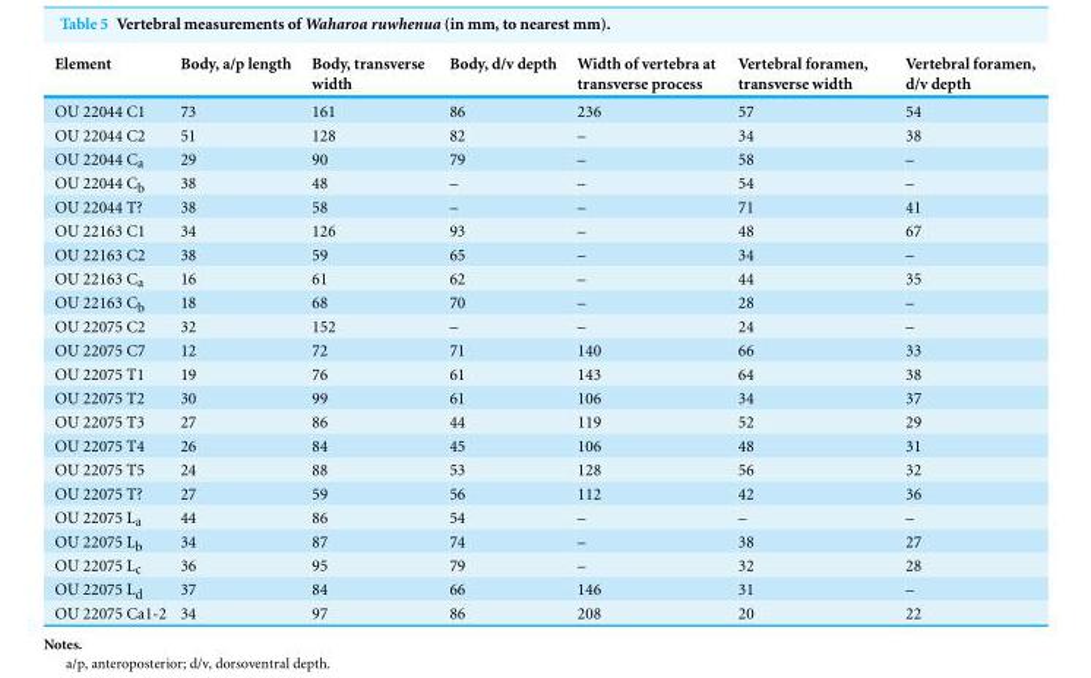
<table><thead><tr><td>Element</td><td>Body, a/p length</td><td>Body, transverse width</td><td>Body, d/v depth</td><td>Width of vertebra at transverse process</td><td>Vertebral foramen, transverse width</td><td>Vertebral foramen, d/v depth</td></tr></thead><tbody><tr><td>OU 22044 C1</td><td>73</td><td>161</td><td>86</td><td>236</td><td>57</td><td>54</td></tr><tr><td>OU 22044 C2</td><td>51</td><td>128</td><td>82</td><td>–</td><td>34</td><td>38</td></tr><tr><td>OU 22044 C<sub>a</sub></td><td>29</td><td>90</td><td>79</td><td>–</td><td>58</td><td>–</td></tr><tr><td>OU 22044 C<sub>b</sub></td><td>38</td><td>48</td><td>–</td><td>–</td><td>54</td><td>–</td></tr><tr><td>OU 22044 T?</td><td>38</td><td>58</td><td>–</td><td>–</td><td>71</td><td>41</td></tr><tr><td>OU 22163 C1</td><td>34</td><td>126</td><td>93</td><td>–</td><td>48</td><td>67</td></tr><tr><td>OU 22163 C2</td><td>38</td><td>59</td><td>65</td><td>–</td><td>34</td><td>–</td></tr><tr><td>OU 22163 C<sub>a</sub></td><td>16</td><td>61</td><td>62</td><td>–</td><td>44</td><td>35</td></tr><tr><td>OU 22163 C<sub>b</sub></td><td>18</td><td>68</td><td>70</td><td>–</td><td>28</td><td>–</td></tr><tr><td>OU 22075 C2</td><td>32</td><td>152</td><td>–</td><td>–</td><td>24</td><td>–</td></tr><tr><td>OU 22075 C7</td><td>12</td><td>72</td><td>71</td><td>140</td><td>66</td><td>33</td></tr><tr><td>OU 22075 T1</td><td>19</td><td>76</td><td>61</td><td>143</td><td>64</td><td>38</td></tr><tr><td>OU 22075 T2</td><td>30</td><td>99</td><td>61</td><td>106</td><td>34</td><td>37</td></tr><tr><td>OU 22075 T3</td><td>27</td><td>86</td><td>44</td><td>119</td><td>52</td><td>29</td></tr><tr><td>OU 22075 T4</td><td>26</td><td>84</td><td>45</td><td>106</td><td>48</td><td>31</td></tr><tr><td>OU 22075 T5</td><td>24</td><td>88</td><td>53</td><td>128</td><td>56</td><td>32</td></tr><tr><td>OU 22075 T?</td><td>27</td><td>59</td><td>56</td><td>112</td><td>42</td><td>36</td></tr><tr><td>OU 22075 L<sub>a</sub></td><td>44</td><td>86</td><td>54</td><td>–</td><td>–</td><td>–</td></tr><tr><td>OU 22075 L<sub>b</sub></td><td>34</td><td>87</td><td>74</td><td>–</td><td>38</td><td>27</td></tr><tr><td>OU 22075 L<sub>c</sub></td><td>36</td><td>95</td><td>79</td><td>–</td><td>32</td><td>28</td></tr><tr><td>OU 22075 L<sub>d</sub></td><td>37</td><td>84</td><td>66</td><td>146</td><td>31</td><td>–</td></tr><tr><td>OU 22075 Ca1-2</td><td>34</td><td>97</td><td>86</td><td>208</td><td>20</td><td>22</td></tr></tbody></table>